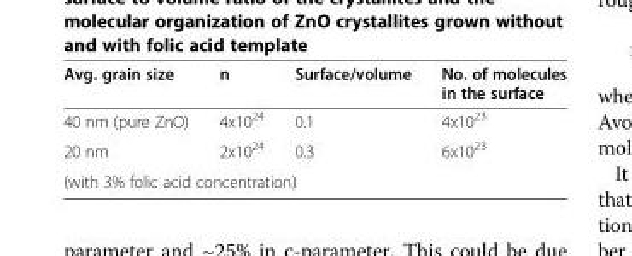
<table><thead><tr><td>Avg. grain size</td><td>n</td><td>Surface/volume</td><td>No. of molecules in the surface</td></tr></thead><tbody><tr><td>40 nm (pure ZnO)</td><td>4x10<sup>24</sup></td><td>0.1</td><td>4x10<sup>23</sup></td></tr><tr><td>20 nm</td><td>2x10<sup>24</sup></td><td>0.3</td><td>6x10<sup>23</sup></td></tr><tr><td colspan="4">(with 3% folic acid concentration)</td></tr></tbody></table>